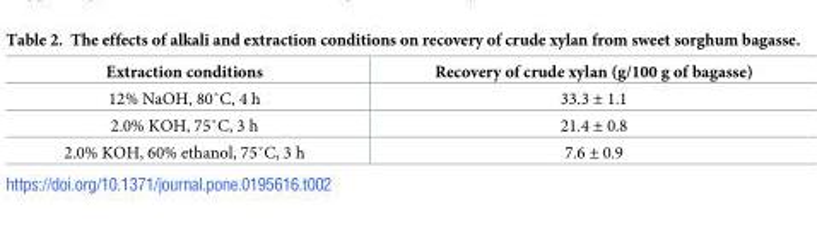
<table><thead><tr><td>Extraction conditions</td><td>Recovery of crude xylan (g/100 g of bagasse)</td></tr></thead><tbody><tr><td>12% NaOH, 80˚C, 4 h</td><td>33.3 ± 1.1</td></tr><tr><td>2.0% KOH, 75˚C, 3 h</td><td>21.4 ± 0.8</td></tr><tr><td>2.0% KOH, 60% ethanol, 75˚C, 3 h</td><td>7.6 ± 0.9</td></tr></tbody></table>